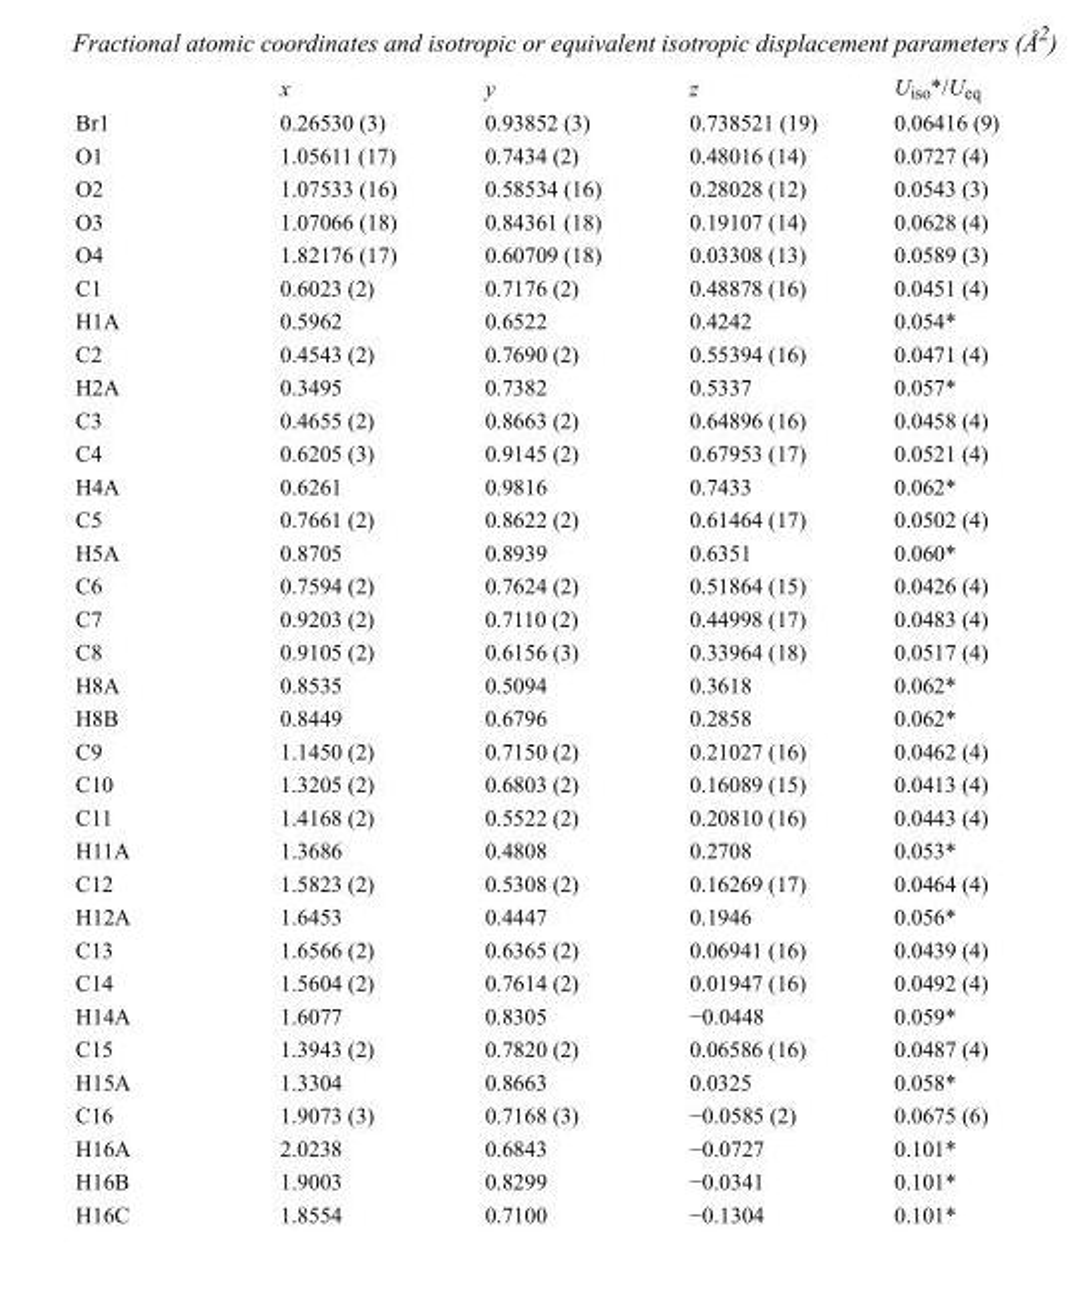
<table><thead><tr><td></td><td>x</td><td>y</td><td>z</td><td>U<sub>iso</sub>*/U<sub>eq</sub></td></tr></thead><tbody><tr><td>Br1</td><td>0.26530 (3)</td><td>0.93852 (3)</td><td>0.738521 (19)</td><td>0.06416 (9)</td></tr><tr><td>O1</td><td>1.05611 (17)</td><td>0.7434 (2)</td><td>0.48016 (14)</td><td>0.0727 (4)</td></tr><tr><td>O2</td><td>1.07533 (16)</td><td>0.58534 (16)</td><td>0.28028 (12)</td><td>0.0543 (3)</td></tr><tr><td>O3</td><td>1.07066 (18)</td><td>0.84361 (18)</td><td>0.19107 (14)</td><td>0.0628 (4)</td></tr><tr><td>O4</td><td>1.82176 (17)</td><td>0.60709 (18)</td><td>0.03308 (13)</td><td>0.0589 (3)</td></tr><tr><td>C1</td><td>0.6023 (2)</td><td>0.7176 (2)</td><td>0.48878 (16)</td><td>0.0451 (4)</td></tr><tr><td>H1A</td><td>0.5962</td><td>0.6522</td><td>0.4242</td><td>0.054*</td></tr><tr><td>C2</td><td>0.4543 (2)</td><td>0.7690 (2)</td><td>0.55394 (16)</td><td>0.0471 (4)</td></tr><tr><td>H2A</td><td>0.3495</td><td>0.7382</td><td>0.5337</td><td>0.057*</td></tr><tr><td>C3</td><td>0.4655 (2)</td><td>0.8663 (2)</td><td>0.64896 (16)</td><td>0.0458 (4)</td></tr><tr><td>C4</td><td>0.6205 (3)</td><td>0.9145 (2)</td><td>0.67953 (17)</td><td>0.0521 (4)</td></tr><tr><td>H4A</td><td>0.6261</td><td>0.9816</td><td>0.7433</td><td>0.062*</td></tr><tr><td>C5</td><td>0.7661 (2)</td><td>0.8622 (2)</td><td>0.61464 (17)</td><td>0.0502 (4)</td></tr><tr><td>H5A</td><td>0.8705</td><td>0.8939</td><td>0.6351</td><td>0.060*</td></tr><tr><td>C6</td><td>0.7594 (2)</td><td>0.7624 (2)</td><td>0.51864 (15)</td><td>0.0426 (4)</td></tr><tr><td>C7</td><td>0.9203 (2)</td><td>0.7110 (2)</td><td>0.44998 (17)</td><td>0.0483 (4)</td></tr><tr><td>C8</td><td>0.9105 (2)</td><td>0.6156 (3)</td><td>0.33964 (18)</td><td>0.0517 (4)</td></tr><tr><td>H8A</td><td>0.8535</td><td>0.5094</td><td>0.3618</td><td>0.062*</td></tr><tr><td>H8B</td><td>0.8449</td><td>0.6796</td><td>0.2858</td><td>0.062*</td></tr><tr><td>C9</td><td>1.1450 (2)</td><td>0.7150 (2)</td><td>0.21027 (16)</td><td>0.0462 (4)</td></tr><tr><td>C10</td><td>1.3205 (2)</td><td>0.6803 (2)</td><td>0.16089 (15)</td><td>0.0413 (4)</td></tr><tr><td>C11</td><td>1.4168 (2)</td><td>0.5522 (2)</td><td>0.20810 (16)</td><td>0.0443 (4)</td></tr><tr><td>H11A</td><td>1.3686</td><td>0.4808</td><td>0.2708</td><td>0.053*</td></tr><tr><td>C12</td><td>1.5823 (2)</td><td>0.5308 (2)</td><td>0.16269 (17)</td><td>0.0464 (4)</td></tr><tr><td>H12A</td><td>1.6453</td><td>0.4447</td><td>0.1946</td><td>0.056*</td></tr><tr><td>C13</td><td>1.6566 (2)</td><td>0.6365 (2)</td><td>0.06941 (16)</td><td>0.0439 (4)</td></tr><tr><td>C14</td><td>1.5604 (2)</td><td>0.7614 (2)</td><td>0.01947 (16)</td><td>0.0492 (4)</td></tr><tr><td>H14A</td><td>1.6077</td><td>0.8305</td><td>−0.0448</td><td>0.059*</td></tr><tr><td>C15</td><td>1.3943 (2)</td><td>0.7820 (2)</td><td>0.06586 (16)</td><td>0.0487 (4)</td></tr><tr><td>H15A</td><td>1.3304</td><td>0.8663</td><td>0.0325</td><td>0.058*</td></tr><tr><td>C16</td><td>1.9073 (3)</td><td>0.7168 (3)</td><td>−0.0585 (2)</td><td>0.0675 (6)</td></tr><tr><td>H16A</td><td>2.0238</td><td>0.6843</td><td>−0.0727</td><td>0.101*</td></tr><tr><td>H16B</td><td>1.9003</td><td>0.8299</td><td>−0.0341</td><td>0.101*</td></tr><tr><td>H16C</td><td>1.8554</td><td>0.7100</td><td>−0.1304</td><td>0.101*</td></tr></tbody></table>